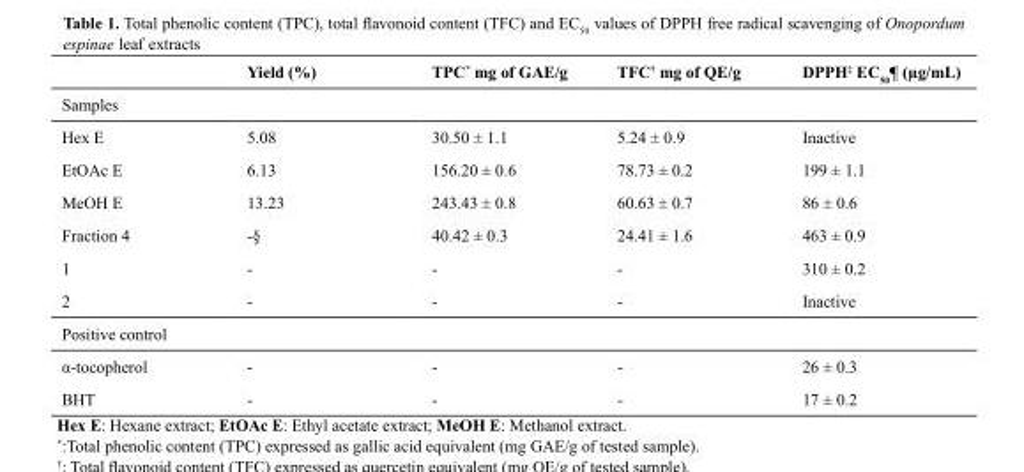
<table><thead><tr><td></td><td>Yield (%)</td><td>TPC* mg of GAE/g</td><td>TFC† mg of QE/g</td><td>DPPH‡ EC<sub>50</sub>¶ (µg/mL)</td></tr></thead><tbody><tr><td>Samples Hex E</td><td>5.08</td><td>30.50 ± 1.1</td><td>5.24 ± 0.9</td><td>Inactive</td></tr><tr><td>EtOAc E</td><td>6.13</td><td>156.20 ± 0.6</td><td>78.73 ± 0.2</td><td>199 ± 1.1</td></tr><tr><td>MeOH E</td><td>13.23</td><td>243.43 ± 0.8</td><td>60.63 ± 0.7</td><td>86 ± 0.6</td></tr><tr><td>Fraction 4</td><td>-<sup>§</sup></td><td>40.42 ± 0.3</td><td>24.41 ± 1.6</td><td>463 ± 0.9</td></tr><tr><td>1</td><td>-</td><td>-</td><td>-</td><td>310 ± 0.2</td></tr><tr><td>2</td><td>-</td><td>-</td><td>-</td><td>Inactive</td></tr><tr><td>Positive control α-tocopherol</td><td>-</td><td>-</td><td>-</td><td>26 ± 0.3</td></tr><tr><td>BHT</td><td>-</td><td>-</td><td>-</td><td>17 ± 0.2</td></tr></tbody></table>